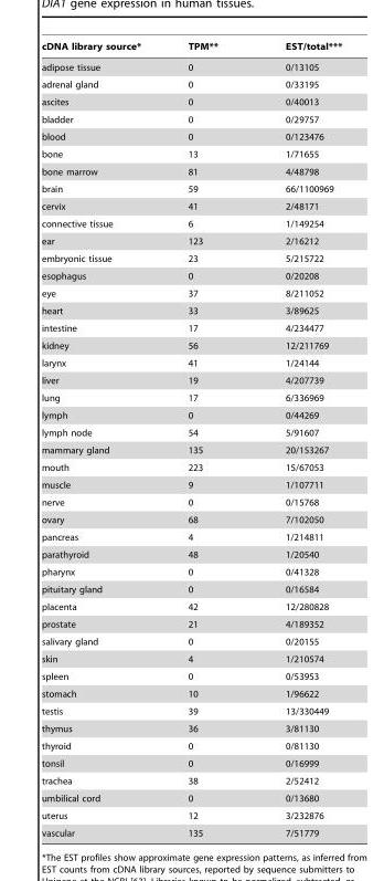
<table><thead><tr><td>cDNA library source*</td><td>TPM**</td><td>EST/total***</td></tr></thead><tbody><tr><td>adipose tissue</td><td>0</td><td>0/13105</td></tr><tr><td>adrenal gland</td><td>0</td><td>0/33195</td></tr><tr><td>ascites</td><td>0</td><td>0/40013</td></tr><tr><td>bladder</td><td>0</td><td>0/29757</td></tr><tr><td>blood</td><td>0</td><td>0/123476</td></tr><tr><td>bone</td><td>13</td><td>1/71655</td></tr><tr><td>bone marrow</td><td>81</td><td>4/48798</td></tr><tr><td>brain</td><td>59</td><td>66/1100969</td></tr><tr><td>cervix</td><td>41</td><td>2/48171</td></tr><tr><td>connective tissue</td><td>6</td><td>1/149254</td></tr><tr><td>ear</td><td>123</td><td>2/16212</td></tr><tr><td>embryonic tissue</td><td>23</td><td>5/215722</td></tr><tr><td>esophagus</td><td>0</td><td>0/20208</td></tr><tr><td>eye</td><td>37</td><td>8/211052</td></tr><tr><td>heart</td><td>33</td><td>3/89625</td></tr><tr><td>intestine</td><td>17</td><td>4/234477</td></tr><tr><td>kidney</td><td>56</td><td>12/211769</td></tr><tr><td>larynx</td><td>41</td><td>1/24144</td></tr><tr><td>liver</td><td>19</td><td>4/207739</td></tr><tr><td>lung</td><td>17</td><td>6/336969</td></tr><tr><td>lymph</td><td>0</td><td>0/44269</td></tr><tr><td>lymph node</td><td>54</td><td>5/91607</td></tr><tr><td>mammary gland</td><td>135</td><td>20/153267</td></tr><tr><td>mouth</td><td>223</td><td>15/67053</td></tr><tr><td>muscle</td><td>9</td><td>1/107711</td></tr><tr><td>nerve</td><td>0</td><td>0/15768</td></tr><tr><td>ovary</td><td>68</td><td>7/102050</td></tr><tr><td>pancreas</td><td>4</td><td>1/214811</td></tr><tr><td>parathyroid</td><td>48</td><td>1/20540</td></tr><tr><td>pharynx</td><td>0</td><td>0/41328</td></tr><tr><td>pituitary gland</td><td>0</td><td>0/16584</td></tr><tr><td>placenta</td><td>42</td><td>12/280828</td></tr><tr><td>prostate</td><td>21</td><td>4/189352</td></tr><tr><td>salivary gland</td><td>0</td><td>0/20155</td></tr><tr><td>skin</td><td>4</td><td>1/210574</td></tr><tr><td>spleen</td><td>0</td><td>0/53953</td></tr><tr><td>stomach</td><td>10</td><td>1/96622</td></tr><tr><td>testis</td><td>39</td><td>13/330449</td></tr><tr><td>thymus</td><td>36</td><td>3/81130</td></tr><tr><td>thyroid</td><td>0</td><td>0/81130</td></tr><tr><td>tonsil</td><td>0</td><td>0/16999</td></tr><tr><td>trachea</td><td>38</td><td>2/52412</td></tr><tr><td>umbilical cord</td><td>0</td><td>0/13680</td></tr><tr><td>uterus</td><td>12</td><td>3/232876</td></tr><tr><td>vascular</td><td>135</td><td>7/51779</td></tr></tbody></table>